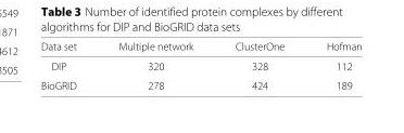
<table><thead><tr><td>Data set</td><td>Multiple network</td><td>ClusterOne</td><td>Hofman</td></tr></thead><tbody><tr><td>DIP</td><td>320</td><td>328</td><td>112</td></tr><tr><td>BioGRID</td><td>278</td><td>424</td><td>189</td></tr></tbody></table>